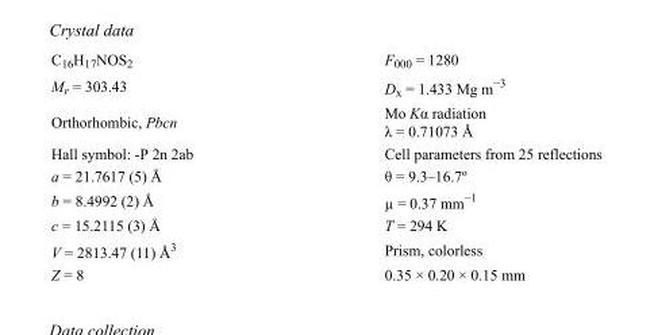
<table><tbody><tr><td>C<sub>16</sub>H<sub>17</sub>NOS<sub>2</sub></td><td>F000 = 1280</td></tr><tr><td>M<sub>r</sub> = 303.43</td><td>D<sub>x</sub> = 1.433 Mg m<sup>−3</sup></td></tr><tr><td>Orthorhombic, Pbcn</td><td>Mo Kα radiation λ = 0.71073 Å</td></tr><tr><td>Hall symbol: -P 2n 2ab</td><td>Cell parameters from 25 reflections</td></tr><tr><td>a = 21.7617 (5) Å</td><td>θ = 9.3–16.7º</td></tr><tr><td>b = 8.4992 (2) Å</td><td>µ = 0.37 mm<sup>−1</sup></td></tr><tr><td>c = 15.2115 (3) Å</td><td>T = 294 K</td></tr><tr><td>V = 2813.47 (11) Å<sup>3</sup></td><td>Prism, colorless</td></tr><tr><td>Z = 8</td><td>0.35 × 0.20 × 0.15 mm</td></tr></tbody></table>